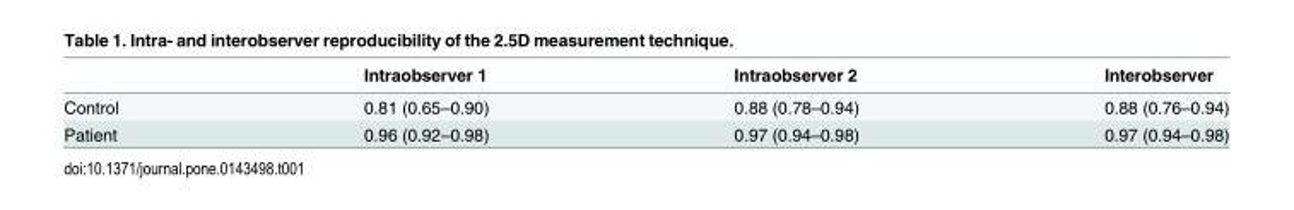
<table><thead><tr><td></td><td>Intraobserver 1</td><td>Intraobserver 2</td><td>Interobserver</td></tr></thead><tbody><tr><td>Control</td><td>0.81 (0.65–0.90)</td><td>0.88 (0.78–0.94)</td><td>0.88 (0.76–0.94)</td></tr><tr><td>Patient</td><td>0.96 (0.92–0.98)</td><td>0.97 (0.94–0.98)</td><td>0.97 (0.94–0.98)</td></tr></tbody></table>